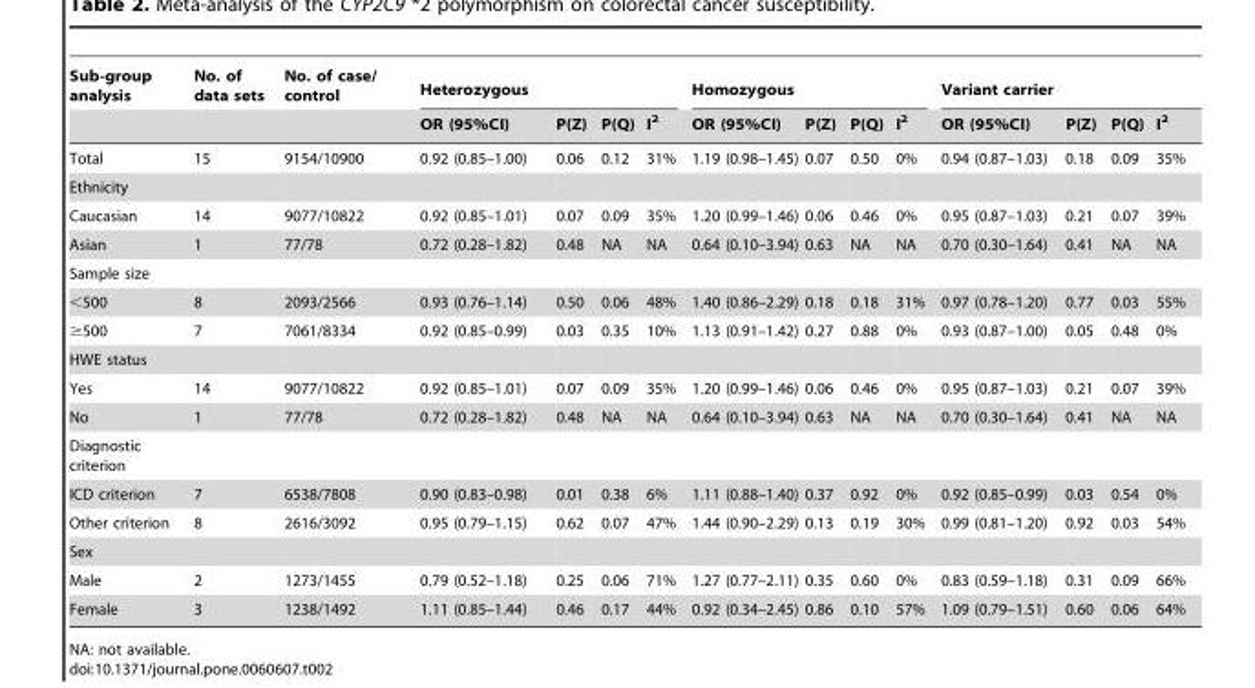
<table><thead><tr><td rowspan="2">Sub-group analysis</td><td rowspan="2">No. of data sets</td><td rowspan="2">No. of case/ control</td><td colspan="4">Heterozygous</td><td colspan="4">Homozygous</td><td colspan="4">Variant carrier</td></tr><tr><td>OR (95%CI)</td><td>P(Z)</td><td>P(Q)</td><td>I<sup>2</sup></td><td>OR (95%CI)</td><td>P(Z)</td><td>P(Q)</td><td>I<sup>2</sup></td><td>OR (95%CI)</td><td>P(Z)</td><td>P(Q)</td><td>I<sup>2</sup></td></tr></thead><tbody><tr><td>Total</td><td>15</td><td>9154/10900</td><td>0.92 (0.85–1.00)</td><td>0.06</td><td>0.12</td><td>31%</td><td>1.19 (0.98–1.45)</td><td>0.07</td><td>0.50</td><td>0%</td><td>0.94 (0.87–1.03)</td><td>0.18</td><td>0.09</td><td>35%</td></tr><tr><td colspan="15">Ethnicity</td></tr><tr><td>Caucasian</td><td>14</td><td>9077/10822</td><td>0.92 (0.85–1.01)</td><td>0.07</td><td>0.09</td><td>35%</td><td>1.20 (0.99–1.46)</td><td>0.06</td><td>0.46</td><td>0%</td><td>0.95 (0.87–1.03)</td><td>0.21</td><td>0.07</td><td>39%</td></tr><tr><td>Asian</td><td>1</td><td>77/78</td><td>0.72 (0.28–1.82)</td><td>0.48</td><td>NA</td><td>NA</td><td>0.64 (0.10–3.94)</td><td>0.63</td><td>NA</td><td>NA</td><td>0.70 (0.30–1.64)</td><td>0.41</td><td>NA</td><td>NA</td></tr><tr><td colspan="15">Sample size</td></tr><tr><td>&lt;500</td><td>8</td><td>2093/2566</td><td>0.93 (0.76–1.14)</td><td>0.50</td><td>0.06</td><td>48%</td><td>1.40 (0.86–2.29)</td><td>0.18</td><td>0.18</td><td>31%</td><td>0.97 (0.78–1.20)</td><td>0.77</td><td>0.03</td><td>55%</td></tr><tr><td>≥500</td><td>7</td><td>7061/8334</td><td>0.92 (0.85–0.99)</td><td>0.03</td><td>0.35</td><td>10%</td><td>1.13 (0.91–1.42)</td><td>0.27</td><td>0.88</td><td>0%</td><td>0.93 (0.87–1.00)</td><td>0.05</td><td>0.48</td><td>0%</td></tr><tr><td colspan="15">HWE status</td></tr><tr><td>Yes</td><td>14</td><td>9077/10822</td><td>0.92 (0.85–1.01)</td><td>0.07</td><td>0.09</td><td>35%</td><td>1.20 (0.99–1.46)</td><td>0.06</td><td>0.46</td><td>0%</td><td>0.95 (0.87–1.03)</td><td>0.21</td><td>0.07</td><td>39%</td></tr><tr><td>No</td><td>1</td><td>77/78</td><td>0.72 (0.28–1.82)</td><td>0.48</td><td>NA</td><td>NA</td><td>0.64 (0.10–3.94)</td><td>0.63</td><td>NA</td><td>NA</td><td>0.70 (0.30–1.64)</td><td>0.41</td><td>NA</td><td>NA</td></tr><tr><td colspan="15">Diagnostic criterion</td></tr><tr><td>ICD criterion</td><td>7</td><td>6538/7808</td><td>0.90 (0.83–0.98)</td><td>0.01</td><td>0.38</td><td>6%</td><td>1.11 (0.88–1.40)</td><td>0.37</td><td>0.92</td><td>0%</td><td>0.92 (0.85–0.99)</td><td>0.03</td><td>0.54</td><td>0%</td></tr><tr><td>Other criterion</td><td>8</td><td>2616/3092</td><td>0.95 (0.79–1.15)</td><td>0.62</td><td>0.07</td><td>47%</td><td>1.44 (0.90–2.29)</td><td>0.13</td><td>0.19</td><td>30%</td><td>0.99 (0.81–1.20)</td><td>0.92</td><td>0.03</td><td>54%</td></tr><tr><td colspan="15">Sex</td></tr><tr><td>Male</td><td>2</td><td>1273/1455</td><td>0.79 (0.52–1.18)</td><td>0.25</td><td>0.06</td><td>71%</td><td>1.27 (0.77–2.11)</td><td>0.35</td><td>0.60</td><td>0%</td><td>0.83 (0.59–1.18)</td><td>0.31</td><td>0.09</td><td>66%</td></tr><tr><td>Female</td><td>3</td><td>1238/1492</td><td>1.11 (0.85–1.44)</td><td>0.46</td><td>0.17</td><td>44%</td><td>0.92 (0.34–2.45)</td><td>0.86</td><td>0.10</td><td>57%</td><td>1.09 (0.79–1.51)</td><td>0.60</td><td>0.06</td><td>64%</td></tr></tbody></table>